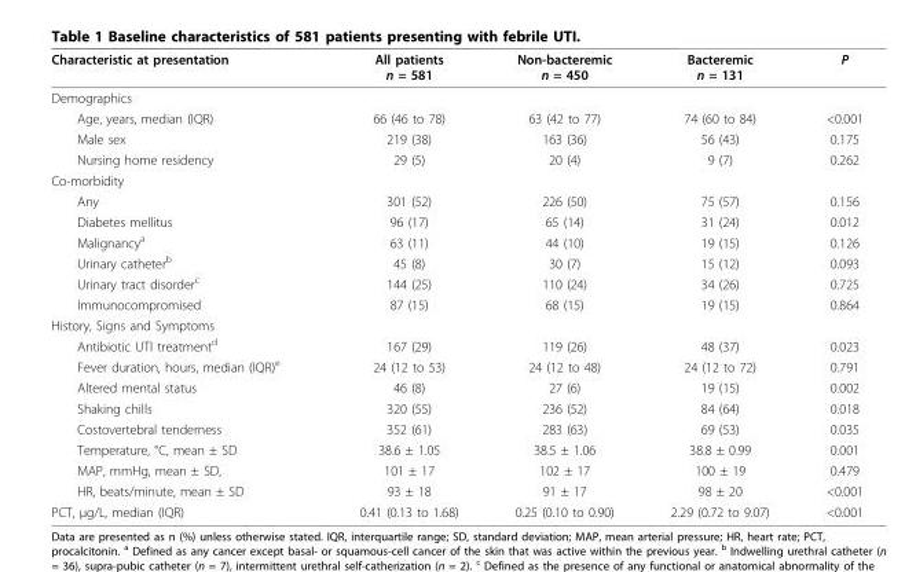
<table><thead><tr><td>Characteristic at presentation</td><td>All patients n = 581</td><td>Non-bacteremic n = 450</td><td>Bacteremic n = 131</td><td>P</td></tr></thead><tbody><tr><td colspan="5">Demographics</td></tr><tr><td>Age, years, median (IQR)</td><td>66 (46 to 78)</td><td>63 (42 to 77)</td><td>74 (60 to 84)</td><td>&lt;0.001</td></tr><tr><td>Male sex</td><td>219 (38)</td><td>163 (36)</td><td>56 (43)</td><td>0.175</td></tr><tr><td>Nursing home residency</td><td>29 (5)</td><td>20 (4)</td><td>9 (7)</td><td>0.262</td></tr><tr><td colspan="5">Co-morbidity</td></tr><tr><td>Any</td><td>301 (52)</td><td>226 (50)</td><td>75 (57)</td><td>0.156</td></tr><tr><td>Diabetes mellitus</td><td>96 (17)</td><td>65 (14)</td><td>31 (24)</td><td>0.012</td></tr><tr><td>Malignancy<sup>a</sup></td><td>63 (11)</td><td>44 (10)</td><td>19 (15)</td><td>0.126</td></tr><tr><td>Urinary catheter<sup>b</sup></td><td>45 (8)</td><td>30 (7)</td><td>15 (12)</td><td>0.093</td></tr><tr><td>Urinary tract disorder<sup>c</sup></td><td>144 (25)</td><td>110 (24)</td><td>34 (26)</td><td>0.725</td></tr><tr><td>Immunocompromised</td><td>87 (15)</td><td>68 (15)</td><td>19 (15)</td><td>0.864</td></tr><tr><td colspan="5">History, Signs and Symptoms</td></tr><tr><td>Antibiotic UTI treatment<sup>d</sup></td><td>167 (29)</td><td>119 (26)</td><td>48 (37)</td><td>0.023</td></tr><tr><td>Fever duration, hours, median (IQR)<sup>e</sup></td><td>24 (12 to 53)</td><td>24 (12 to 48)</td><td>24 (12 to 72)</td><td>0.791</td></tr><tr><td>Altered mental status</td><td>46 (8)</td><td>27 (6)</td><td>19 (15)</td><td>0.002</td></tr><tr><td>Shaking chills</td><td>320 (55)</td><td>236 (52)</td><td>84 (64)</td><td>0.018</td></tr><tr><td>Costovertebral tenderness</td><td>352 (61)</td><td>283 (63)</td><td>69 (53)</td><td>0.035</td></tr><tr><td>Temperature, °C, mean ± SD</td><td>38.6 ± 1.05</td><td>38.5 ± 1.06</td><td>38.8 ± 0.99</td><td>0.001</td></tr><tr><td>MAP, mmHg, mean ± SD,</td><td>101 ± 17</td><td>102 ± 17</td><td>100 ± 19</td><td>0.479</td></tr><tr><td>HR, beats/minute, mean ± SD</td><td>93 ± 18</td><td>91 ± 17</td><td>98 ± 20</td><td>&lt;0.001</td></tr><tr><td>PCT, μg/L, median (IQR)</td><td>0.41 (0.13 to 1.68)</td><td>0.25 (0.10 to 0.90)</td><td>2.29 (0.72 to 9.07)</td><td>&lt;0.001</td></tr></tbody></table>